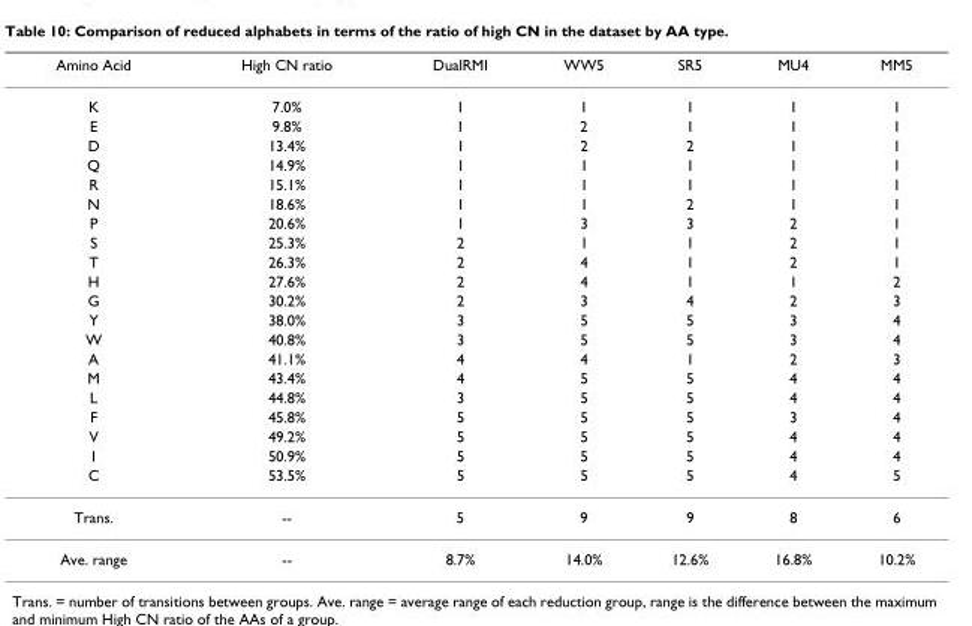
<table><thead><tr><td>Amino Acid</td><td>High CN ratio</td><td>DualRMI</td><td>WW5</td><td>SR5</td><td>MU4</td><td>MM5</td></tr></thead><tbody><tr><td>K</td><td>7.0%</td><td>1</td><td>1</td><td>1</td><td>1</td><td>1</td></tr><tr><td>E</td><td>9.8%</td><td>1</td><td>2</td><td>1</td><td>1</td><td>1</td></tr><tr><td>D</td><td>13.4%</td><td>1</td><td>2</td><td>2</td><td>1</td><td>1</td></tr><tr><td>Q</td><td>14.9%</td><td>1</td><td>1</td><td>1</td><td>1</td><td>1</td></tr><tr><td>R</td><td>15.1%</td><td>1</td><td>1</td><td>1</td><td>1</td><td>1</td></tr><tr><td>N</td><td>18.6%</td><td>1</td><td>1</td><td>2</td><td>1</td><td>1</td></tr><tr><td>P</td><td>20.6%</td><td>1</td><td>3</td><td>3</td><td>2</td><td>1</td></tr><tr><td>S</td><td>25.3%</td><td>2</td><td>1</td><td>1</td><td>2</td><td>1</td></tr><tr><td>T</td><td>26.3%</td><td>2</td><td>4</td><td>1</td><td>2</td><td>1</td></tr><tr><td>H</td><td>27.6%</td><td>2</td><td>4</td><td>1</td><td>1</td><td>2</td></tr><tr><td>G</td><td>30.2%</td><td>2</td><td>3</td><td>4</td><td>2</td><td>3</td></tr><tr><td>Y</td><td>38.0%</td><td>3</td><td>5</td><td>5</td><td>3</td><td>4</td></tr><tr><td>W</td><td>40.8%</td><td>3</td><td>5</td><td>5</td><td>3</td><td>4</td></tr><tr><td>A</td><td>41.1%</td><td>4</td><td>4</td><td>1</td><td>2</td><td>3</td></tr><tr><td>M</td><td>43.4%</td><td>4</td><td>5</td><td>5</td><td>4</td><td>4</td></tr><tr><td>L</td><td>44.8%</td><td>3</td><td>5</td><td>5</td><td>4</td><td>4</td></tr><tr><td>F</td><td>45.8%</td><td>5</td><td>5</td><td>5</td><td>3</td><td>4</td></tr><tr><td>V</td><td>49.2%</td><td>5</td><td>5</td><td>5</td><td>4</td><td>4</td></tr><tr><td>I</td><td>50.9%</td><td>5</td><td>5</td><td>5</td><td>4</td><td>4</td></tr><tr><td>C</td><td>53.5%</td><td>5</td><td>5</td><td>5</td><td>4</td><td>5</td></tr><tr><td>Trans.</td><td>--</td><td>5</td><td>9</td><td>9</td><td>8</td><td>6</td></tr><tr><td>Ave. range</td><td>--</td><td>8.7%</td><td>14.0%</td><td>12.6%</td><td>16.8%</td><td>10.2%</td></tr></tbody></table>